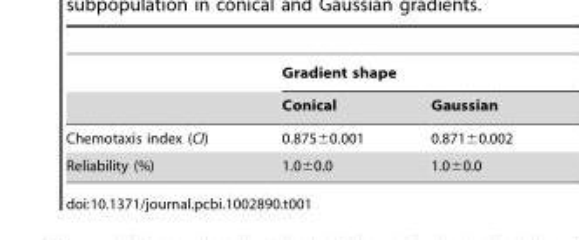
<table><thead><tr><td rowspan="2"></td><td colspan="2">Gradient shape</td></tr><tr><td>Conical</td><td>Gaussian</td></tr></thead><tbody><tr><td>Chemotaxis index (CI)</td><td>0.875±0.001</td><td>0.871±0.002</td></tr><tr><td>Reliability (%)</td><td>1.0±0.0</td><td>1.0±0.0</td></tr></tbody></table>